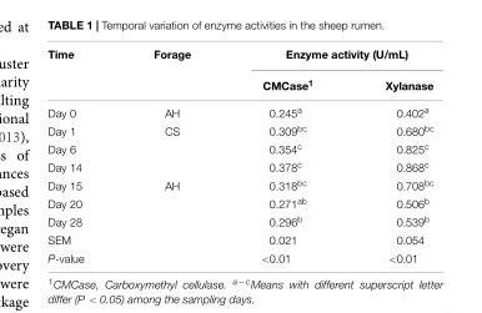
<table><thead><tr><td rowspan="2">Time</td><td rowspan="2">Forage</td><td colspan="2">Enzyme activity (U/mL)</td></tr><tr><td>CMCase<sup>1</sup></td><td>Xylanase</td></tr></thead><tbody><tr><td>Day 0</td><td>AH</td><td>0.245<sup>a</sup></td><td>0.402<sup>a</sup></td></tr><tr><td>Day 1</td><td>CS</td><td>0.309<sup>bc</sup></td><td>0.680<sup>bc</sup></td></tr><tr><td>Day 6</td><td></td><td>0.354<sup>c</sup></td><td>0.825<sup>c</sup></td></tr><tr><td>Day 14</td><td></td><td>0.378<sup>c</sup></td><td>0.868<sup>c</sup></td></tr><tr><td>Day 15</td><td>AH</td><td>0.318<sup>bc</sup></td><td>0.708<sup>bc</sup></td></tr><tr><td>Day 20</td><td></td><td>0.271<sup>ab</sup></td><td>0.506<sup>b</sup></td></tr><tr><td>Day 28</td><td></td><td>0.296<sup>b</sup></td><td>0.539<sup>b</sup></td></tr><tr><td>SEM</td><td></td><td>0.021</td><td>0.054</td></tr><tr><td>P-value</td><td></td><td>&lt;0.01</td><td>&lt;0.01</td></tr></tbody></table>